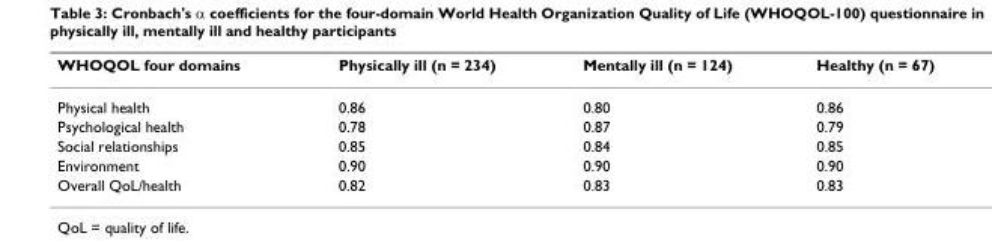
<table><thead><tr><td>WHOQOL four domains</td><td>Physically ill (n = 234)</td><td>Mentally ill (n = 124)</td><td>Healthy (n = 67)</td></tr></thead><tbody><tr><td>Physical health</td><td>0.86</td><td>0.80</td><td>0.86</td></tr><tr><td>Psychological health</td><td>0.78</td><td>0.87</td><td>0.79</td></tr><tr><td>Social relationships</td><td>0.85</td><td>0.84</td><td>0.85</td></tr><tr><td>Environment</td><td>0.90</td><td>0.90</td><td>0.90</td></tr><tr><td>Overall QoL/health</td><td>0.82</td><td>0.83</td><td>0.83</td></tr></tbody></table>